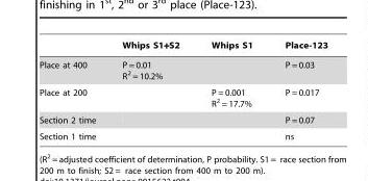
<table><thead><tr><td></td><td>Whips S1+S2</td><td>Whips S1</td><td>Place-123</td></tr></thead><tbody><tr><td>Place at 400</td><td>P = 0.01 R<sup>2</sup> = 10.2%</td><td></td><td>P = 0.03</td></tr><tr><td>Place at 200</td><td></td><td>P = 0.001 R<sup>2</sup> = 17.7%</td><td>P = 0.017</td></tr><tr><td>Section 2 time</td><td></td><td></td><td>P = 0.07</td></tr><tr><td>Section 1 time</td><td></td><td></td><td>ns</td></tr></tbody></table>